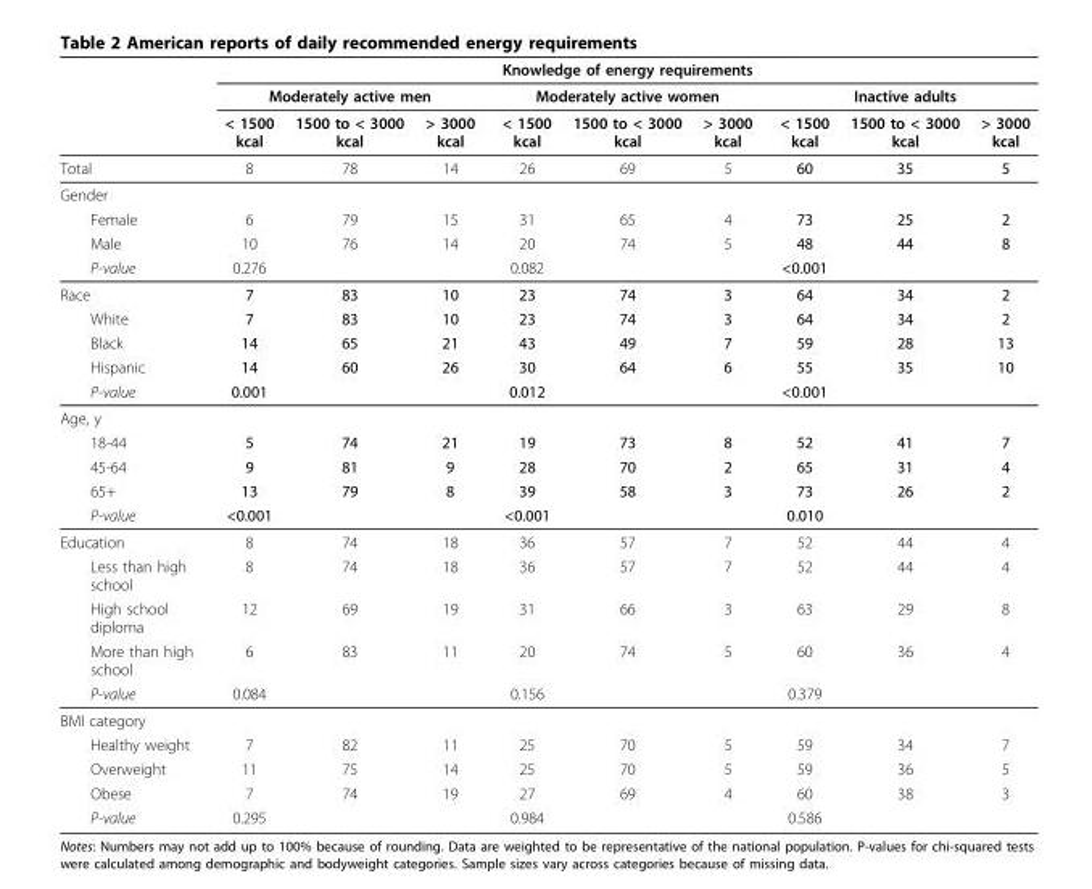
<table><thead><tr><td rowspan="3"></td><td colspan="9">Knowledge of energy requirements</td></tr><tr><td colspan="3">Moderately active men</td><td colspan="3">Moderately active women</td><td colspan="3">Inactive adults</td></tr><tr><td>&lt; 1500 kcal</td><td>1500 to &lt; 3000 kcal</td><td>&gt; 3000 kcal</td><td>&lt; 1500 kcal</td><td>1500 to &lt; 3000 kcal</td><td>&gt; 3000 kcal</td><td>&lt; 1500 kcal</td><td>1500 to &lt; 3000 kcal</td><td>&gt; 3000 kcal</td></tr></thead><tbody><tr><td>Total</td><td>8</td><td>78</td><td>14</td><td>26</td><td>69</td><td>5</td><td>60</td><td>35</td><td>5</td></tr><tr><td colspan="10">Gender</td></tr><tr><td>Female</td><td>6</td><td>79</td><td>15</td><td>31</td><td>65</td><td>4</td><td>73</td><td>25</td><td>2</td></tr><tr><td>Male</td><td>10</td><td>76</td><td>14</td><td>20</td><td>74</td><td>5</td><td>48</td><td>44</td><td>8</td></tr><tr><td>P-value</td><td>0.276</td><td></td><td></td><td>0.082</td><td></td><td></td><td>&lt;0.001</td><td></td><td></td></tr><tr><td>Race</td><td>7</td><td>83</td><td>10</td><td>23</td><td>74</td><td>3</td><td>64</td><td>34</td><td>2</td></tr><tr><td>White</td><td>7</td><td>83</td><td>10</td><td>23</td><td>74</td><td>3</td><td>64</td><td>34</td><td>2</td></tr><tr><td>Black</td><td>14</td><td>65</td><td>21</td><td>43</td><td>49</td><td>7</td><td>59</td><td>28</td><td>13</td></tr><tr><td>Hispanic</td><td>14</td><td>60</td><td>26</td><td>30</td><td>64</td><td>6</td><td>55</td><td>35</td><td>10</td></tr><tr><td>P-value</td><td>0.001</td><td></td><td></td><td>0.012</td><td></td><td></td><td>&lt;0.001</td><td></td><td></td></tr><tr><td colspan="10">Age, y</td></tr><tr><td>18-44</td><td>5</td><td>74</td><td>21</td><td>19</td><td>73</td><td>8</td><td>52</td><td>41</td><td>7</td></tr><tr><td>45-64</td><td>9</td><td>81</td><td>9</td><td>28</td><td>70</td><td>2</td><td>65</td><td>31</td><td>4</td></tr><tr><td>65+</td><td>13</td><td>79</td><td>8</td><td>39</td><td>58</td><td>3</td><td>73</td><td>26</td><td>2</td></tr><tr><td>P-value</td><td>&lt;0.001</td><td></td><td></td><td>&lt;0.001</td><td></td><td></td><td>0.010</td><td></td><td></td></tr><tr><td>Education</td><td>8</td><td>74</td><td>18</td><td>36</td><td>57</td><td>7</td><td>52</td><td>44</td><td>4</td></tr><tr><td>Less than high school</td><td>8</td><td>74</td><td>18</td><td>36</td><td>57</td><td>7</td><td>52</td><td>44</td><td>4</td></tr><tr><td>High school diploma</td><td>12</td><td>69</td><td>19</td><td>31</td><td>66</td><td>3</td><td>63</td><td>29</td><td>8</td></tr><tr><td>More than high school</td><td>6</td><td>83</td><td>11</td><td>20</td><td>74</td><td>5</td><td>60</td><td>36</td><td>4</td></tr><tr><td>P-value</td><td>0.084</td><td></td><td></td><td>0.156</td><td></td><td></td><td>0.379</td><td></td><td></td></tr><tr><td colspan="10">BMI category</td></tr><tr><td>Healthy weight</td><td>7</td><td>82</td><td>11</td><td>25</td><td>70</td><td>5</td><td>59</td><td>34</td><td>7</td></tr><tr><td>Overweight</td><td>11</td><td>75</td><td>14</td><td>25</td><td>70</td><td>5</td><td>59</td><td>36</td><td>5</td></tr><tr><td>Obese</td><td>7</td><td>74</td><td>19</td><td>27</td><td>69</td><td>4</td><td>60</td><td>38</td><td>3</td></tr><tr><td>P-value</td><td>0.295</td><td></td><td></td><td>0.984</td><td></td><td></td><td>0.586</td><td></td><td></td></tr></tbody></table>